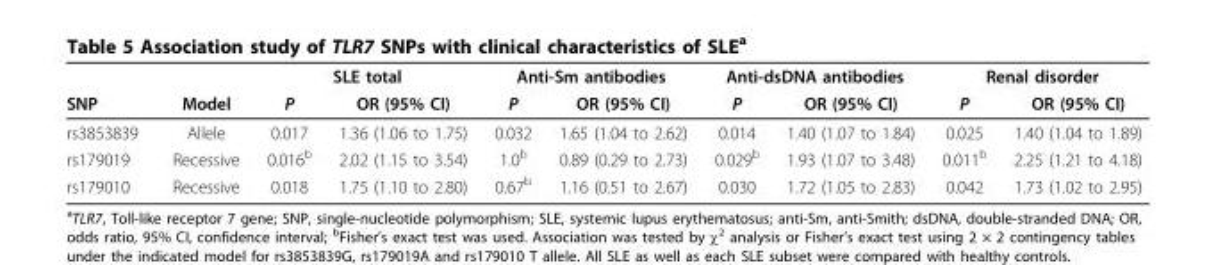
<table><thead><tr><td rowspan="2">SNP</td><td rowspan="2">Model</td><td colspan="2">SLE total</td><td colspan="2">Anti-Sm antibodies</td><td colspan="2">Anti-dsDNA antibodies</td><td colspan="2">Renal disorder</td></tr><tr><td>P</td><td>OR (95% CI)</td><td>P</td><td>OR (95% CI)</td><td>P</td><td>OR (95% CI)</td><td>P</td><td>OR (95% CI)</td></tr></thead><tbody><tr><td>rs3853839</td><td>Allele</td><td>0.017</td><td>1.36 (1.06 to 1.75)</td><td>0.032</td><td>1.65 (1.04 to 2.62)</td><td>0.014</td><td>1.40 (1.07 to 1.84)</td><td>0.025</td><td>1.40 (1.04 to 1.89)</td></tr><tr><td>rs179019</td><td>Recessive</td><td>0.016<sup>b</sup></td><td>2.02 (1.15 to 3.54)</td><td>1.0<sup>b</sup></td><td>0.89 (0.29 to 2.73)</td><td>0.029<sup>b</sup></td><td>1.93 (1.07 to 3.48)</td><td>0.011<sup>b</sup></td><td>2.25 (1.21 to 4.18)</td></tr><tr><td>rs179010</td><td>Recessive</td><td>0.018</td><td>1.75 (1.10 to 2.80)</td><td>0.67<sup>b</sup></td><td>1.16 (0.51 to 2.67)</td><td>0.030</td><td>1.72 (1.05 to 2.83)</td><td>0.042</td><td>1.73 (1.02 to 2.95)</td></tr></tbody></table>